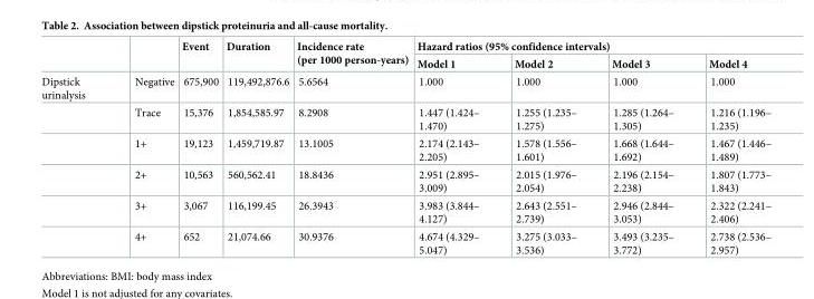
<table><thead><tr><td rowspan="2"></td><td rowspan="2"></td><td rowspan="2">Event</td><td rowspan="2">Duration</td><td rowspan="2">Incidence rate (per 1000 person-years)</td><td colspan="4">Hazard ratios (95% confidence intervals)</td></tr><tr><td>Model 1</td><td>Model 2</td><td>Model 3</td><td>Model 4</td></tr></thead><tbody><tr><td rowspan="6">Dipstick urinalysis</td><td>Negative</td><td>675,900</td><td>119,492,876.6</td><td>5.6564</td><td>1.000</td><td>1.000</td><td>1.000</td><td>1.000</td></tr><tr><td>Trace</td><td>15,376</td><td>1,854,585.97</td><td>8.2908</td><td>1.447 (1.424– 1.470)</td><td>1.255 (1.235– 1.275)</td><td>1.285 (1.264– 1.305)</td><td>1.216 (1.196– 1.235)</td></tr><tr><td>1+</td><td>19,123</td><td>1,459,719.87</td><td>13.1005</td><td>2.174 (2.143– 2.205)</td><td>1.578 (1.556– 1.601)</td><td>1.668 (1.644– 1.692)</td><td>1.467 (1.446– 1.489)</td></tr><tr><td>2+</td><td>10,563</td><td>560,562.41</td><td>18.8436</td><td>2.951 (2.895– 3.009)</td><td>2.015 (1.976– 2.054)</td><td>2.196 (2.154– 2.238)</td><td>1.807 (1.773– 1.843)</td></tr><tr><td>3+</td><td>3,067</td><td>116,199.45</td><td>26.3943</td><td>3.983 (3.844– 4.127)</td><td>2.643 (2.551– 2.739)</td><td>2.946 (2.844– 3.053)</td><td>2.322 (2.241– 2.406)</td></tr><tr><td>4+</td><td>652</td><td>21,074.66</td><td>30.9376</td><td>4.674 (4.329– 5.047)</td><td>3.275 (3.033– 3.536)</td><td>3.493 (3.235– 3.772)</td><td>2.738 (2.536– 2.957)</td></tr></tbody></table>